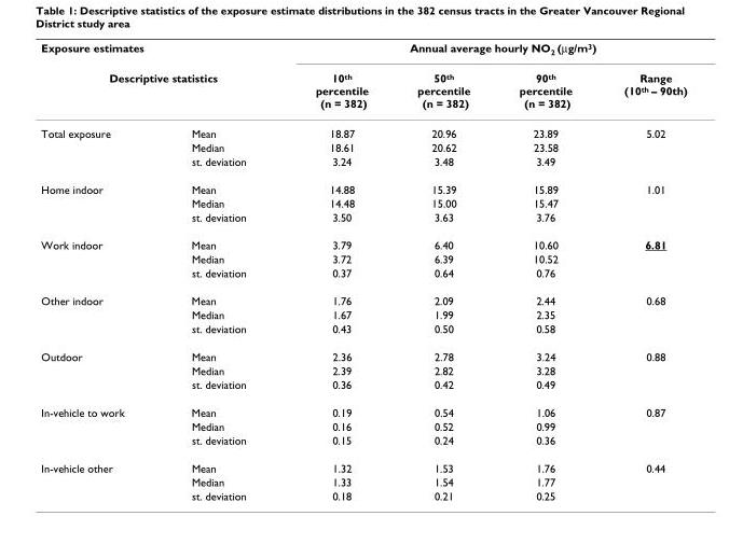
<table><thead><tr><td rowspan="2" colspan="2">Exposure estimates Descriptive statistics</td><td colspan="4">Annual average hourly NO<sub>2</sub> (μg/m<sup>3</sup>)</td></tr><tr><td rowspan="2">10<sup>th</sup> percentile (n = 382) 18.87</td><td rowspan="2">50<sup>th</sup> percentile (n = 382) 20.96</td><td rowspan="2">90<sup>th</sup> percentile (n = 382) 23.89</td><td rowspan="2">Range (10<sup>th</sup> – 90th) 5.02</td></tr><tr><td>Total exposure</td><td>Mean</td></tr></thead><tbody><tr><td></td><td>Median</td><td>18.61</td><td>20.62</td><td>23.58</td><td></td></tr><tr><td></td><td>st. deviation</td><td>3.24</td><td>3.48</td><td>3.49</td><td></td></tr><tr><td rowspan="3">Home indoor</td><td>Mean</td><td>14.88</td><td>15.39</td><td>15.89</td><td>1.01</td></tr><tr><td>Median</td><td>14.48</td><td>15.00</td><td>15.47</td><td></td></tr><tr><td>st. deviation</td><td>3.50</td><td>3.63</td><td>3.76</td><td></td></tr><tr><td rowspan="3">Work indoor</td><td>Mean</td><td>3.79</td><td>6.40</td><td>10.60</td><td>6.81</td></tr><tr><td>Median</td><td>3.72</td><td>6.39</td><td>10.52</td><td></td></tr><tr><td>st. deviation</td><td>0.37</td><td>0.64</td><td>0.76</td><td></td></tr><tr><td rowspan="3">Other indoor</td><td>Mean</td><td>1.76</td><td>2.09</td><td>2.44</td><td>0.68</td></tr><tr><td>Median</td><td>1.67</td><td>1.99</td><td>2.35</td><td></td></tr><tr><td>st. deviation</td><td>0.43</td><td>0.50</td><td>0.58</td><td></td></tr><tr><td rowspan="3">Outdoor</td><td>Mean</td><td>2.36</td><td>2.78</td><td>3.24</td><td>0.88</td></tr><tr><td>Median</td><td>2.39</td><td>2.82</td><td>3.28</td><td></td></tr><tr><td>st. deviation</td><td>0.36</td><td>0.42</td><td>0.49</td><td></td></tr><tr><td rowspan="3">In-vehicle to work</td><td>Mean</td><td>0.19</td><td>0.54</td><td>1.06</td><td>0.87</td></tr><tr><td>Median</td><td>0.16</td><td>0.52</td><td>0.99</td><td></td></tr><tr><td>st. deviation</td><td>0.15</td><td>0.24</td><td>0.36</td><td></td></tr><tr><td rowspan="3">In-vehicle other</td><td>Mean</td><td>1.32</td><td>1.53</td><td>1.76</td><td>0.44</td></tr><tr><td>Median</td><td>1.33</td><td>1.54</td><td>1.77</td><td></td></tr><tr><td>st. deviation</td><td>0.18</td><td>0.21</td><td>0.25</td><td></td></tr></tbody></table>